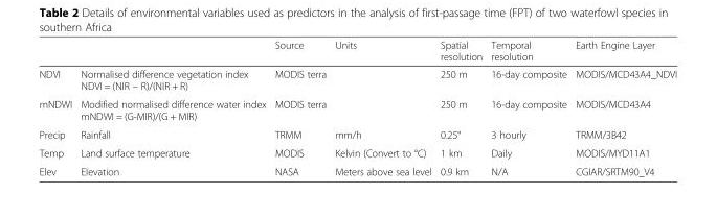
<table><thead><tr><td></td><td></td><td>Source</td><td>Units</td><td>Spatial resolution</td><td>Temporal resolution</td><td>Earth Engine Layer</td></tr></thead><tbody><tr><td>NDVI</td><td>Normalised difference vegetation index NDVI = (NIR – R)/(NIR + R)</td><td>MODIS terra</td><td></td><td>250 m</td><td>16-day composite</td><td>MODIS/MCD43A4_NDVI</td></tr><tr><td>mNDWI</td><td>Modified normalised difference water index mNDWI = (G-MIR)/(G + MIR)</td><td>MODIS terra</td><td></td><td>250 m</td><td>16-day composite</td><td>MODIS/MCD43A4</td></tr><tr><td>Precip</td><td>Rainfall</td><td>TRMM</td><td>mm/h</td><td>0.25°</td><td>3 hourly</td><td>TRMM/3B42</td></tr><tr><td>Temp</td><td>Land surface temperature</td><td>MODIS</td><td>Kelvin (Convert to °C)</td><td>1 km</td><td>Daily</td><td>MODIS/MYD11A1</td></tr><tr><td>Elev</td><td>Elevation</td><td>NASA</td><td>Meters above sea level</td><td>0.9 km</td><td>N/A</td><td>CGIAR/SRTM90_V4</td></tr></tbody></table>